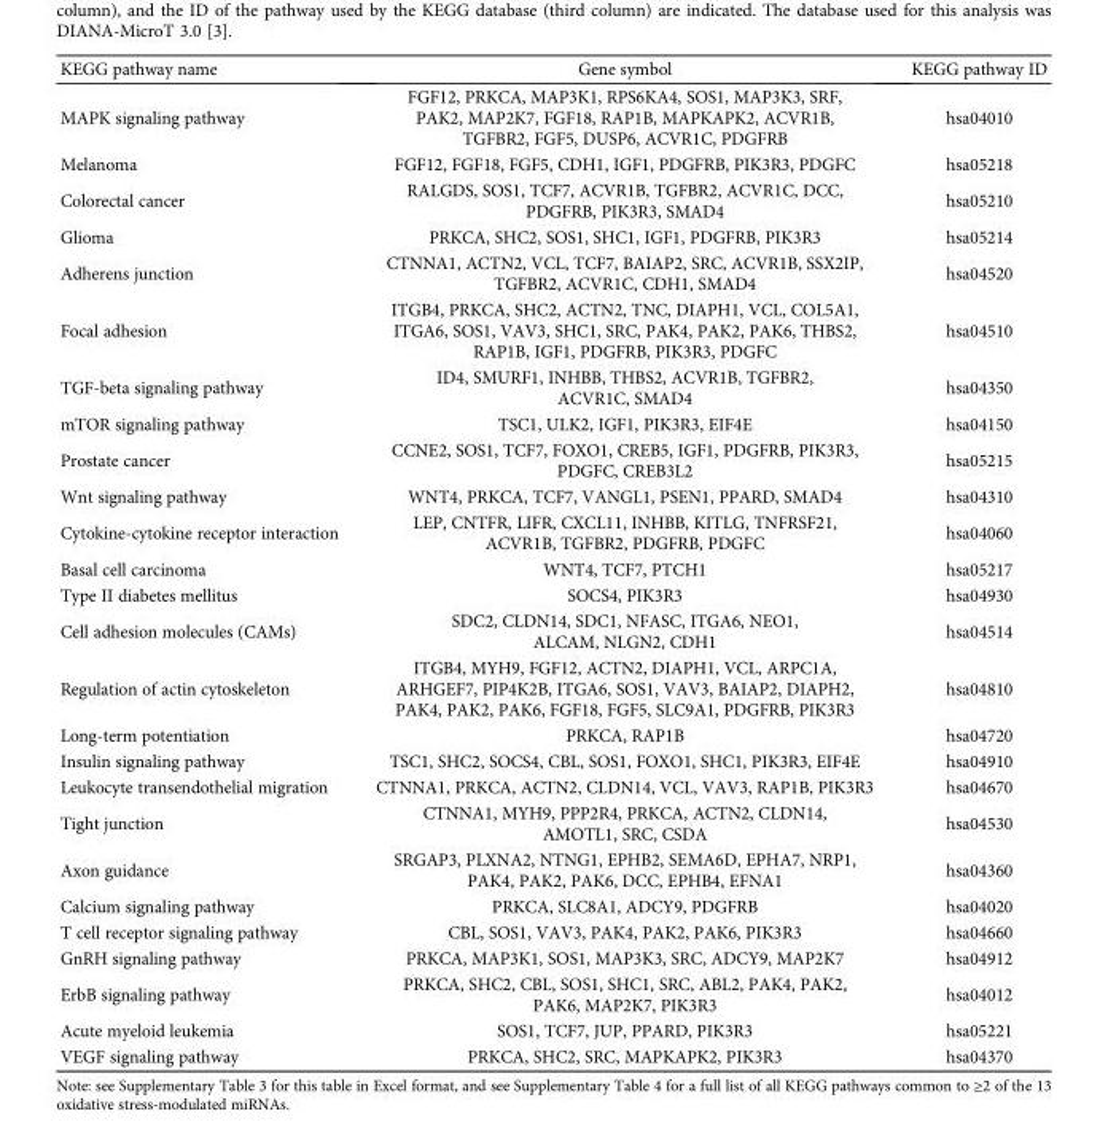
<table><thead><tr><td>KEGG pathway name</td><td>Gene symbol</td><td>KEGG pathway ID</td></tr></thead><tbody><tr><td>MAPK signaling pathway</td><td>FGF12, PRKCA, MAP3K1, RPS6KA4, SOS1, MAP3K3, SRF, PAK2, MAP2K7, FGF18, RAP1B, MAPKAPK2, ACVR1B, TGFBR2, FGF5, DUSP6, ACVR1C, PDGFRB</td><td>hsa04010</td></tr><tr><td>Melanoma</td><td>FGF12, FGF18, FGF5, CDH1, IGF1, PDGFRB, PIK3R3, PDGFC</td><td>hsa05218</td></tr><tr><td>Colorectal cancer</td><td>RALGDS, SOS1, TCF7, ACVR1B, TGFBR2, ACVR1C, DCC, PDGFRB, PIK3R3, SMAD4</td><td>hsa05210</td></tr><tr><td>Glioma</td><td>PRKCA, SHC2, SOS1, SHC1, IGF1, PDGFRB, PIK3R3</td><td>hsa05214</td></tr><tr><td>Adherens junction</td><td>CTNNA1, ACTN2, VCL, TCF7, BAIAP2, SRC, ACVR1B, SSX2IP, TGFBR2, ACVR1C, CDH1, SMAD4</td><td>hsa04520</td></tr><tr><td>Focal adhesion</td><td>ITGB4, PRKCA, SHC2, ACTN2, TNC, DIAPH1, VCL, COL5A1, ITGA6, SOS1, VAV3, SHC1, SRC, PAK4, PAK2, PAK6, THBS2, RAP1B, IGF1, PDGFRB, PIK3R3, PDGFC</td><td>hsa04510</td></tr><tr><td>TGF-beta signaling pathway</td><td>ID4, SMURF1, INHBB, THBS2, ACVR1B, TGFBR2, ACVR1C, SMAD4</td><td>hsa04350</td></tr><tr><td>mTOR signaling pathway</td><td>TSC1, ULK2, IGF1, PIK3R3, EIF4E</td><td>hsa04150</td></tr><tr><td>Prostate cancer</td><td>CCNE2, SOS1, TCF7, FOXO1, CREB5, IGF1, PDGFRB, PIK3R3, PDGFC, CREB3L2</td><td>hsa05215</td></tr><tr><td>Wnt signaling pathway</td><td>WNT4, PRKCA, TCF7, VANGL1, PSEN1, PPARD, SMAD4</td><td>hsa04310</td></tr><tr><td>Cytokine-cytokine receptor interaction</td><td>LEP, CNTFR, LIFR, CXCL11, INHBB, KITLG, TNFRSF21, ACVR1B, TGFBR2, PDGFRB, PDGFC</td><td>hsa04060</td></tr><tr><td>Basal cell carcinoma</td><td>WNT4, TCF7, PTCH1</td><td>hsa05217</td></tr><tr><td>Type II diabetes mellitus</td><td>SOCS4, PIK3R3</td><td>hsa04930</td></tr><tr><td>Cell adhesion molecules (CAMs)</td><td>SDC2, CLDN14, SDC1, NFASC, ITGA6, NEO1, ALCAM, NLGN2, CDH1</td><td>hsa04514</td></tr><tr><td>Regulation of actin cytoskeleton</td><td>ITGB4, MYH9, FGF12, ACTN2, DIAPH1, VCL, ARPC1A, ARHGEF7, PIP4K2B, ITGA6, SOS1, VAV3, BAIAP2, DIAPH2, PAK4, PAK2, PAK6, FGF18, FGF5, SLC9A1, PDGFRB, PIK3R3</td><td>hsa04810</td></tr><tr><td>Long-term potentiation</td><td>PRKCA, RAP1B</td><td>hsa04720</td></tr><tr><td>Insulin signaling pathway</td><td>TSC1, SHC2, SOCS4, CBL, SOS1, FOXO1, SHC1, PIK3R3, EIF4E</td><td>hsa04910</td></tr><tr><td>Leukocyte transendothelial migration</td><td>CTNNA1, PRKCA, ACTN2, CLDN14, VCL, VAV3, RAP1B, PIK3R3</td><td>hsa04670</td></tr><tr><td>Tight junction</td><td>CTNNA1, MYH9, PPP2R4, PRKCA, ACTN2, CLDN14, AMOTL1, SRC, CSDA</td><td>hsa04530</td></tr><tr><td>Axon guidance</td><td>SRGAP3, PLXNA2, NTNG1, EPHB2, SEMA6D, EPHA7, NRP1, PAK4, PAK2, PAK6, DCC, EPHB4, EFNA1</td><td>hsa04360</td></tr><tr><td>Calcium signaling pathway</td><td>PRKCA, SLC8A1, ADCY9, PDGFRB</td><td>hsa04020</td></tr><tr><td>T cell receptor signaling pathway</td><td>CBL, SOS1, VAV3, PAK4, PAK2, PAK6, PIK3R3</td><td>hsa04660</td></tr><tr><td>GnRH signaling pathway</td><td>PRKCA, MAP3K1, SOS1, MAP3K3, SRC, ADCY9, MAP2K7</td><td>hsa04912</td></tr><tr><td>ErbB signaling pathway</td><td>PRKCA, SHC2, CBL, SOS1, SHC1, SRC, ABL2, PAK4, PAK2, PAK6, MAP2K7, PIK3R3</td><td>hsa04012</td></tr><tr><td>Acute myeloid leukemia</td><td>SOS1, TCF7, JUP, PPARD, PIK3R3</td><td>hsa05221</td></tr><tr><td>VEGF signaling pathway</td><td>PRKCA, SHC2, SRC, MAPKAPK2, PIK3R3</td><td>hsa04370</td></tr></tbody></table>